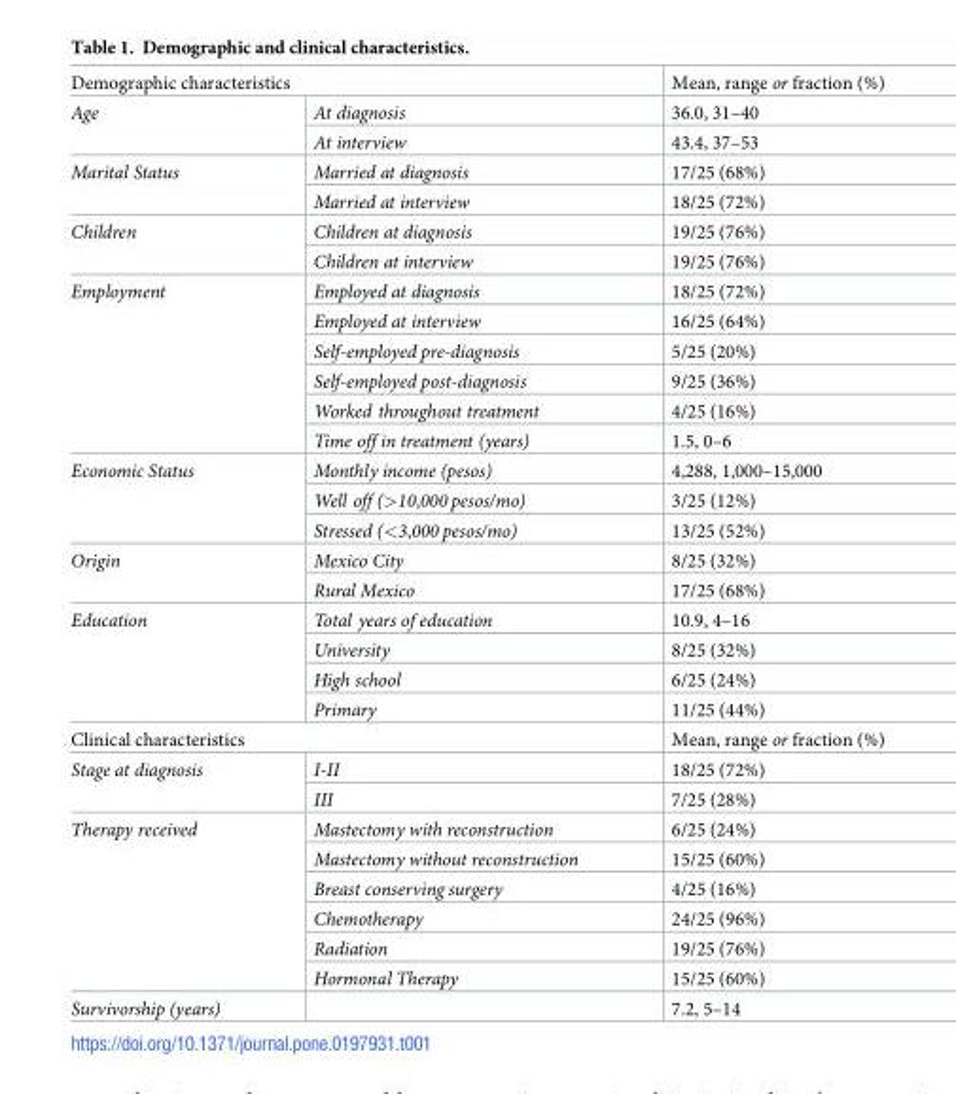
<table><tbody><tr><td colspan="2">Demographic characteristics</td><td>Mean, range or fraction (%)</td></tr><tr><td rowspan="2">Age</td><td>At diagnosis</td><td>36.0, 31–40</td></tr><tr><td>At interview</td><td>43.4, 37–53</td></tr><tr><td rowspan="2">Marital Status</td><td>Married at diagnosis</td><td>17/25 (68%)</td></tr><tr><td>Married at interview</td><td>18/25 (72%)</td></tr><tr><td rowspan="2">Children</td><td>Children at diagnosis</td><td>19/25 (76%)</td></tr><tr><td>Children at interview</td><td>19/25 (76%)</td></tr><tr><td rowspan="6">Employment</td><td>Employed at diagnosis</td><td>18/25 (72%)</td></tr><tr><td>Employed at interview</td><td>16/25 (64%)</td></tr><tr><td>Self-employed pre-diagnosis</td><td>5/25 (20%)</td></tr><tr><td>Self-employed post-diagnosis</td><td>9/25 (36%)</td></tr><tr><td>Worked throughout treatment</td><td>4/25 (16%)</td></tr><tr><td>Time off in treatment (years)</td><td>1.5, 0–6</td></tr><tr><td rowspan="3">Economic Status</td><td>Monthly income (pesos)</td><td>4,288, 1,000–15,000</td></tr><tr><td>Well off (&gt;10,000 pesos/mo)</td><td>3/25 (12%)</td></tr><tr><td>Stressed (&lt;3,000 pesos/mo)</td><td>13/25 (52%)</td></tr><tr><td rowspan="2">Origin</td><td>Mexico City</td><td>8/25 (32%)</td></tr><tr><td>Rural Mexico</td><td>17/25 (68%)</td></tr><tr><td rowspan="4">Education</td><td>Total years of education</td><td>10.9, 4–16</td></tr><tr><td>University</td><td>8/25 (32%)</td></tr><tr><td>High school</td><td>6/25 (24%)</td></tr><tr><td>Primary</td><td>11/25 (44%)</td></tr><tr><td colspan="2">Clinical characteristics</td><td>Mean, range or fraction (%)</td></tr><tr><td rowspan="2">Stage at diagnosis</td><td>I-II</td><td>18/25 (72%)</td></tr><tr><td>III</td><td>7/25 (28%)</td></tr><tr><td rowspan="6">Therapy received</td><td>Mastectomy with reconstruction</td><td>6/25 (24%)</td></tr><tr><td>Mastectomy without reconstruction</td><td>15/25 (60%)</td></tr><tr><td>Breast conserving surgery</td><td>4/25 (16%)</td></tr><tr><td>Chemotherapy</td><td>24/25 (96%)</td></tr><tr><td>Radiation</td><td>19/25 (76%)</td></tr><tr><td>Hormonal Therapy</td><td>15/25 (60%)</td></tr><tr><td>Survivorship (years)</td><td></td><td>7.2, 5–14</td></tr></tbody></table>